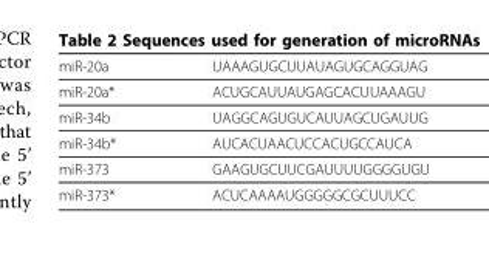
<table><thead><tr><td>miR-20a</td><td>UAAAGUGCUUAUAGUGCAGGUAG</td></tr></thead><tbody><tr><td>miR-20a*</td><td>ACUGCAUUAUGAGCACUUAAAGU</td></tr><tr><td>miR-34b</td><td>UAGGCAGUGUCAUUAGCUGAUUG</td></tr><tr><td>miR-34b*</td><td>AUCACUAACUCCACUGCCAUCA</td></tr><tr><td>miR-373</td><td>GAAGUGCUUCGAUUUUGGGGUGU</td></tr><tr><td>miR-373*</td><td>ACUCAAAAUGGGGGCGCUUUCC</td></tr></tbody></table>